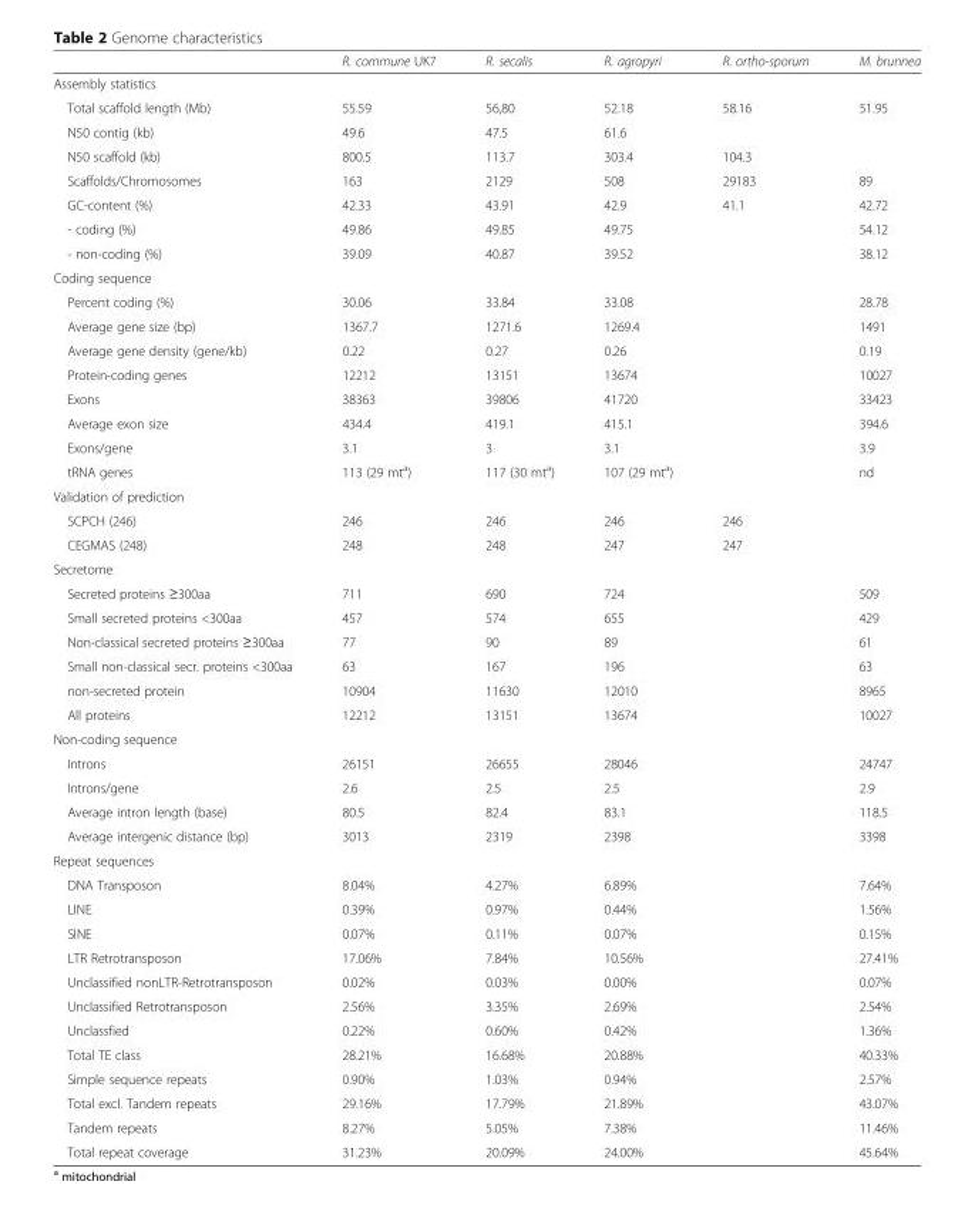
<table><thead><tr><td></td><td>R. commune UK7</td><td>R. secalis</td><td>R. agropyri</td><td>R. ortho-sporum</td><td>M. brunnea</td></tr></thead><tbody><tr><td colspan="6">Assembly statistics</td></tr><tr><td>Total scaffold length (Mb)</td><td>55.59</td><td>56,80</td><td>52.18</td><td>58.16</td><td>51.95</td></tr><tr><td>N50 contig (kb)</td><td>49.6</td><td>47.5</td><td>61.6</td><td></td><td></td></tr><tr><td>N50 scaffold (kb)</td><td>800.5</td><td>113.7</td><td>303.4</td><td>104.3</td><td></td></tr><tr><td>Scaffolds/Chromosomes</td><td>163</td><td>2129</td><td>508</td><td>29183</td><td>89</td></tr><tr><td>GC-content (%)</td><td>42.33</td><td>43.91</td><td>42.9</td><td>41.1</td><td>42.72</td></tr><tr><td>- coding (%)</td><td>49.86</td><td>49.85</td><td>49.75</td><td></td><td>54.12</td></tr><tr><td>- non-coding (%)</td><td>39.09</td><td>40.87</td><td>39.52</td><td></td><td>38.12</td></tr><tr><td colspan="6">Coding sequence</td></tr><tr><td>Percent coding (%)</td><td>30.06</td><td>33.84</td><td>33.08</td><td></td><td>28.78</td></tr><tr><td>Average gene size (bp)</td><td>1367.7</td><td>1271.6</td><td>1269.4</td><td></td><td>1491</td></tr><tr><td>Average gene density (gene/kb)</td><td>0.22</td><td>0.27</td><td>0.26</td><td></td><td>0.19</td></tr><tr><td>Protein-coding genes</td><td>12212</td><td>13151</td><td>13674</td><td></td><td>10027</td></tr><tr><td>Exons</td><td>38363</td><td>39806</td><td>41720</td><td></td><td>33423</td></tr><tr><td>Average exon size</td><td>434.4</td><td>419.1</td><td>415.1</td><td></td><td>394.6</td></tr><tr><td>Exons/gene</td><td>3.1</td><td>3</td><td>3.1</td><td></td><td>3.9</td></tr><tr><td>tRNA genes</td><td>113 (29 mt<sup>a</sup>)</td><td>117 (30 mt<sup>a</sup>)</td><td>107 (29 mt<sup>a</sup>)</td><td></td><td>nd</td></tr><tr><td colspan="6">Validation of prediction</td></tr><tr><td>SCPCH (246)</td><td>246</td><td>246</td><td>246</td><td>246</td><td></td></tr><tr><td>CEGMAS (248)</td><td>248</td><td>248</td><td>247</td><td>247</td><td></td></tr><tr><td colspan="6">Secretome</td></tr><tr><td>Secreted proteins ≥300aa</td><td>711</td><td>690</td><td>724</td><td></td><td>509</td></tr><tr><td>Small secreted proteins &lt;300aa</td><td>457</td><td>574</td><td>655</td><td></td><td>429</td></tr><tr><td>Non-classical secreted proteins ≥300aa</td><td>77</td><td>90</td><td>89</td><td></td><td>61</td></tr><tr><td>Small non-classical secr. proteins &lt;300aa</td><td>63</td><td>167</td><td>196</td><td></td><td>63</td></tr><tr><td>non-secreted protein</td><td>10904</td><td>11630</td><td>12010</td><td></td><td>8965</td></tr><tr><td>All proteins</td><td>12212</td><td>13151</td><td>13674</td><td></td><td>10027</td></tr><tr><td colspan="6">Non-coding sequence</td></tr><tr><td>Introns</td><td>26151</td><td>26655</td><td>28046</td><td></td><td>24747</td></tr><tr><td>Introns/gene</td><td>2.6</td><td>2.5</td><td>2.5</td><td></td><td>2.9</td></tr><tr><td>Average intron length (base)</td><td>80.5</td><td>82.4</td><td>83.1</td><td></td><td>118.5</td></tr><tr><td>Average intergenic distance (bp)</td><td>3013</td><td>2319</td><td>2398</td><td></td><td>3398</td></tr><tr><td colspan="6">Repeat sequences</td></tr><tr><td>DNA Transposon</td><td>8.04%</td><td>4.27%</td><td>6.89%</td><td></td><td>7.64%</td></tr><tr><td>LINE</td><td>0.39%</td><td>0.97%</td><td>0.44%</td><td></td><td>1.56%</td></tr><tr><td>SINE</td><td>0.07%</td><td>0.11%</td><td>0.07%</td><td></td><td>0.15%</td></tr><tr><td>LTR Retrotransposon</td><td>17.06%</td><td>7.84%</td><td>10.56%</td><td></td><td>27.41%</td></tr><tr><td>Unclassified nonLTR-Retrotransposon</td><td>0.02%</td><td>0.03%</td><td>0.00%</td><td></td><td>0.07%</td></tr><tr><td>Unclassified Retrotransposon</td><td>2.56%</td><td>3.35%</td><td>2.69%</td><td></td><td>2.54%</td></tr><tr><td>Unclassfied</td><td>0.22%</td><td>0.60%</td><td>0.42%</td><td></td><td>1.36%</td></tr><tr><td>Total TE class</td><td>28.21%</td><td>16.68%</td><td>20.88%</td><td></td><td>40.33%</td></tr><tr><td>Simple sequence repeats</td><td>0.90%</td><td>1.03%</td><td>0.94%</td><td></td><td>2.57%</td></tr><tr><td>Total excl. Tandem repeats</td><td>29.16%</td><td>17.79%</td><td>21.89%</td><td></td><td>43.07%</td></tr><tr><td>Tandem repeats</td><td>8.27%</td><td>5.05%</td><td>7.38%</td><td></td><td>11.46%</td></tr><tr><td>Total repeat coverage</td><td>31.23%</td><td>20.09%</td><td>24.00%</td><td></td><td>45.64%</td></tr></tbody></table>